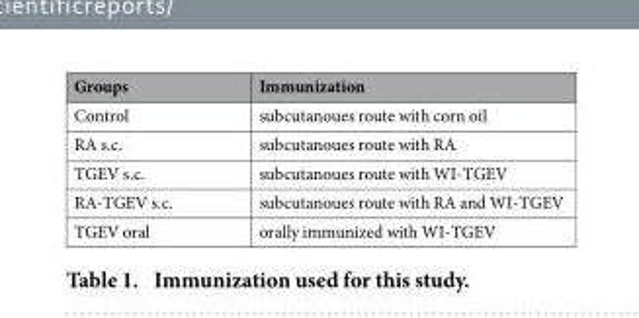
<table><thead><tr><td>Groups</td><td>Immunization</td></tr></thead><tbody><tr><td>Control</td><td>subcutanoues route with corn oil</td></tr><tr><td>RA s.c.</td><td>subcutanoues route with RA</td></tr><tr><td>TGEV s.c.</td><td>subcutanoues route with WI-TGEV</td></tr><tr><td>RA-TGEV s.c.</td><td>subcutanoues route with RA and WI-TGEV</td></tr><tr><td>TGEV oral</td><td>orally immunized with WI-TGEV</td></tr></tbody></table>